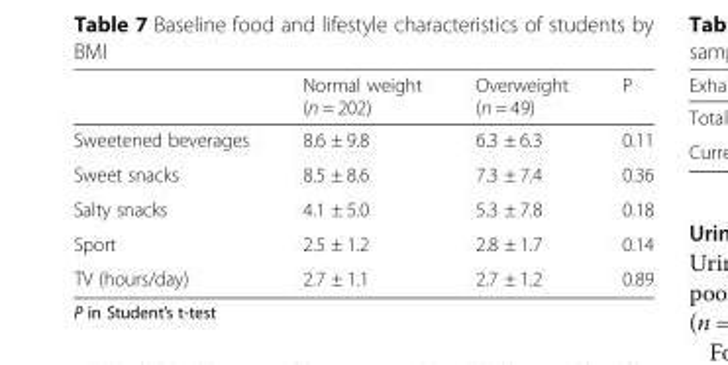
<table><thead><tr><td></td><td>Normal weight (n = 202)</td><td>Overweight (n = 49)</td><td>P</td></tr></thead><tbody><tr><td>Sweetened beverages</td><td>8.6 ± 9.8</td><td>6.3 ± 6.3</td><td>0.11</td></tr><tr><td>Sweet snacks</td><td>8.5 ± 8.6</td><td>7.3 ± 7.4</td><td>0.36</td></tr><tr><td>Salty snacks</td><td>4.1 ± 5.0</td><td>5.3 ± 7.8</td><td>0.18</td></tr><tr><td>Sport</td><td>2.5 ± 1.2</td><td>2.8 ± 1.7</td><td>0.14</td></tr><tr><td>TV (hours/day)</td><td>2.7 ± 1.1</td><td>2.7 ± 1.2</td><td>0.89</td></tr></tbody></table>